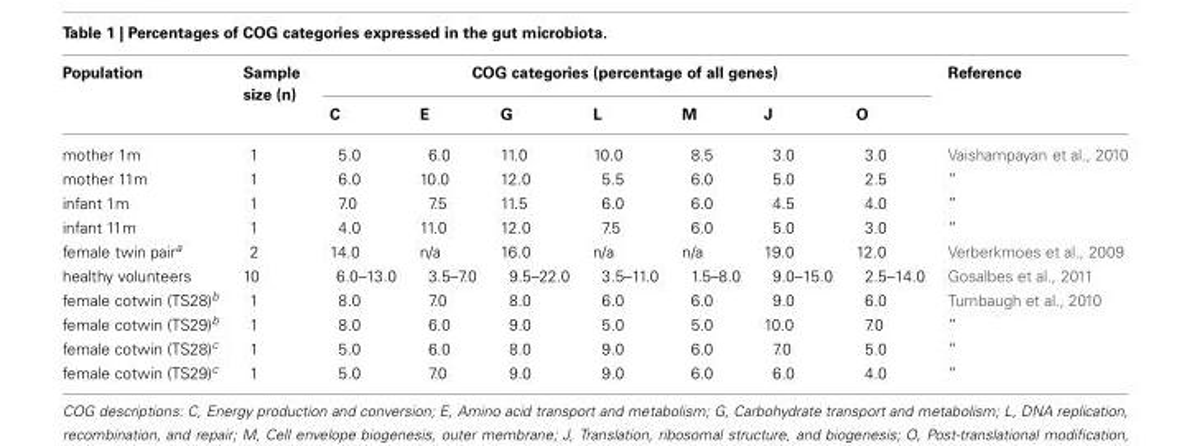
<table><thead><tr><td rowspan="2">Population</td><td rowspan="2">Sample size (n)</td><td colspan="7">COG categories (percentage of all genes)</td><td rowspan="2">Reference</td></tr><tr><td>C</td><td>E</td><td>G</td><td>L</td><td>M</td><td>J</td><td>O</td></tr></thead><tbody><tr><td>mother 1m</td><td>1</td><td>5.0</td><td>6.0</td><td>11.0</td><td>10.0</td><td>8.5</td><td>3.0</td><td>3.0</td><td>Vaishampayan et al., 2010</td></tr><tr><td>mother 11m</td><td>1</td><td>6.0</td><td>10.0</td><td>12.0</td><td>5.5</td><td>6.0</td><td>5.0</td><td>2.5</td><td>”</td></tr><tr><td>infant 1m</td><td>1</td><td>7.0</td><td>7.5</td><td>11.5</td><td>6.0</td><td>6.0</td><td>4.5</td><td>4.0</td><td>”</td></tr><tr><td>infant 11m</td><td>1</td><td>4.0</td><td>11.0</td><td>12.0</td><td>7.5</td><td>6.0</td><td>5.0</td><td>3.0</td><td>”</td></tr><tr><td>female twin pair<sup>a</sup></td><td>2</td><td>14.0</td><td>n/a</td><td>16.0</td><td>n/a</td><td>n/a</td><td>19.0</td><td>12.0</td><td>Verberkmoes et al., 2009</td></tr><tr><td>healthy volunteers</td><td>10</td><td>6.0–13.0</td><td>3.5–7.0</td><td>9.5–22.0</td><td>3.5–11.0</td><td>1.5–8.0</td><td>9.0–15.0</td><td>2.5–14.0</td><td>Gosalbes et al., 2011</td></tr><tr><td>female cotwin (TS28)<sup>b</sup></td><td>1</td><td>8.0</td><td>7.0</td><td>8.0</td><td>6.0</td><td>6.0</td><td>9.0</td><td>6.0</td><td>Turnbaugh et al., 2010</td></tr><tr><td>female cotwin (TS29)<sup>b</sup></td><td>1</td><td>8.0</td><td>6.0</td><td>9.0</td><td>5.0</td><td>5.0</td><td>10.0</td><td>7.0</td><td>”</td></tr><tr><td>female cotwin (TS28)<sup>c</sup></td><td>1</td><td>5.0</td><td>6.0</td><td>8.0</td><td>9.0</td><td>6.0</td><td>7.0</td><td>5.0</td><td>”</td></tr><tr><td>female cotwin (TS29)<sup>c</sup></td><td>1</td><td>5.0</td><td>7.0</td><td>9.0</td><td>9.0</td><td>6.0</td><td>6.0</td><td>4.0</td><td>”</td></tr></tbody></table>